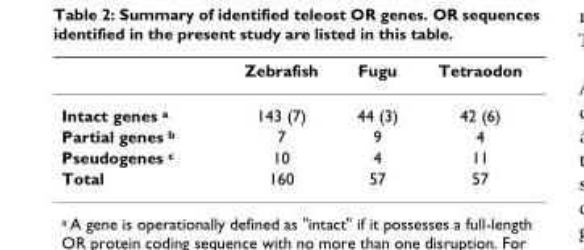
<table><thead><tr><td></td><td>Zebrafish</td><td>Fugu</td><td>Tetraodon</td></tr></thead><tbody><tr><td>Intact genes <sup>a</sup></td><td>143 (7)</td><td>44 (3)</td><td>42 (6)</td></tr><tr><td>Partial genes <sup>b</sup></td><td>7</td><td>9</td><td>4</td></tr><tr><td>Pseudogenes <sup>c</sup></td><td>10</td><td>4</td><td>11</td></tr><tr><td>Total</td><td>160</td><td>57</td><td>57</td></tr></tbody></table>